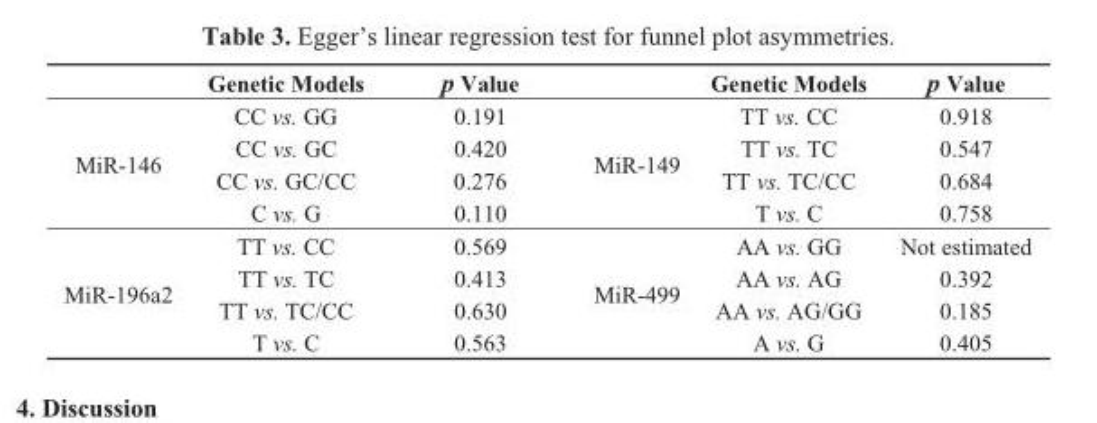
<table><thead><tr><td></td><td>Genetic Models</td><td>p Value</td><td></td><td>Genetic Models</td><td>p Value</td></tr></thead><tbody><tr><td rowspan="4">MiR-146</td><td>CC vs. GG</td><td>0.191</td><td rowspan="4">MiR-149</td><td>TT vs. CC</td><td>0.918</td></tr><tr><td>CC vs. GC</td><td>0.420</td><td>TT vs. TC</td><td>0.547</td></tr><tr><td>CC vs. GC/CC</td><td>0.276</td><td>TT vs. TC/CC</td><td>0.684</td></tr><tr><td>C vs. G</td><td>0.110</td><td>T vs. C</td><td>0.758</td></tr><tr><td rowspan="4">MiR-196a2</td><td>TT vs. CC</td><td>0.569</td><td rowspan="4">MiR-499</td><td>AA vs. GG</td><td>Not estimated</td></tr><tr><td>TT vs. TC</td><td>0.413</td><td>AA vs. AG</td><td>0.392</td></tr><tr><td>TT vs. TC/CC</td><td>0.630</td><td>AA vs. AG/GG</td><td>0.185</td></tr><tr><td>T vs. C</td><td>0.563</td><td>A vs. G</td><td>0.405</td></tr></tbody></table>